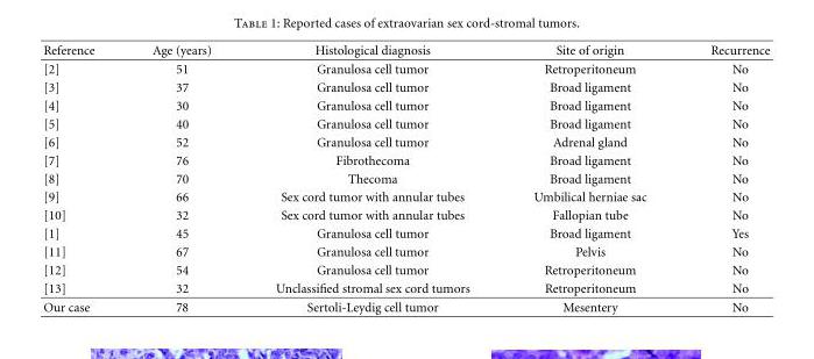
<table><thead><tr><td>Reference</td><td>Age (years)</td><td>Histological diagnosis</td><td>Site of origin</td><td>Recurrence</td></tr></thead><tbody><tr><td>[2]</td><td>51</td><td>Granulosa cell tumor</td><td>Retroperitoneum</td><td>No</td></tr><tr><td>[3]</td><td>37</td><td>Granulosa cell tumor</td><td>Broad ligament</td><td>No</td></tr><tr><td>[4]</td><td>30</td><td>Granulosa cell tumor</td><td>Broad ligament</td><td>No</td></tr><tr><td>[5]</td><td>40</td><td>Granulosa cell tumor</td><td>Broad ligament</td><td>No</td></tr><tr><td>[6]</td><td>52</td><td>Granulosa cell tumor</td><td>Adrenal gland</td><td>No</td></tr><tr><td>[7]</td><td>76</td><td>Fibrothecoma</td><td>Broad ligament</td><td>No</td></tr><tr><td>[8]</td><td>70</td><td>Thecoma</td><td>Broad ligament</td><td>No</td></tr><tr><td>[9]</td><td>66</td><td>Sex cord tumor with annular tubes</td><td>Umbilical herniae sac</td><td>No</td></tr><tr><td>[10]</td><td>32</td><td>Sex cord tumor with annular tubes</td><td>Fallopian tube</td><td>No</td></tr><tr><td>[1]</td><td>45</td><td>Granulosa cell tumor</td><td>Broad ligament</td><td>Yes</td></tr><tr><td>[11]</td><td>67</td><td>Granulosa cell tumor</td><td>Pelvis</td><td>No</td></tr><tr><td>[12]</td><td>54</td><td>Granulosa cell tumor</td><td>Retroperitoneum</td><td>No</td></tr><tr><td>[13]</td><td>32</td><td>Unclassified stromal sex cord tumors</td><td>Retroperitoneum</td><td>No</td></tr><tr><td>Our case</td><td>78</td><td>Sertoli-Leydig cell tumor</td><td>Mesentery</td><td>No</td></tr></tbody></table>